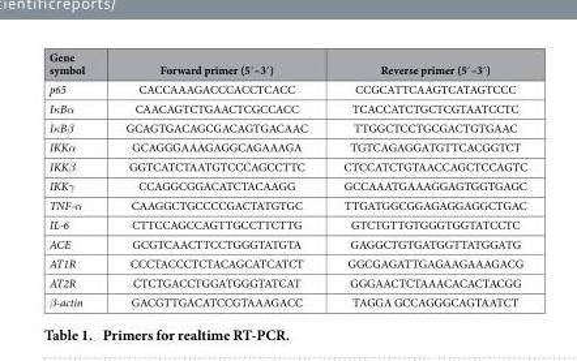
<table><thead><tr><td>Gene symbol</td><td>Forward primer (5′ –3′ )</td><td>Reverse primer (5′ –3′ )</td></tr></thead><tbody><tr><td>p65</td><td>CACCAAAGACCCACCTCACC</td><td>CCGCATTCAAGTCATAGTCCC</td></tr><tr><td>IκBα</td><td>CAACAGTCTGAACTCGCCACC</td><td>TCACCATCTGCTCGTAATCCTC</td></tr><tr><td>IκBβ</td><td>GCAGTGACAGCGACAGTGACAAC</td><td>TTGGCTCCTGCGACTGTGAAC</td></tr><tr><td>IKKα</td><td>GCAGGGAAAGAGGCAGAAAGA</td><td>TGTCAGAGGATGTTCACGGTCT</td></tr><tr><td>IKKβ</td><td>GGTCATCTAATGTCCCAGCCTTC</td><td>CTCCATCTGTAACCAGCTCCAGTC</td></tr><tr><td>IKKγ</td><td>CCAGGCGGACATCTACAAGG</td><td>GCCAAATGAAAGGAGTGGTGAGC</td></tr><tr><td>TNF-α</td><td>CAAGGCTGCCCCGACTATGTGC</td><td>TTGATGGCGGAGAGGAGGCTGAC</td></tr><tr><td>IL-6</td><td>CTTCCAGCCAGTTGCCTTCTTG</td><td>GTCTGTTGTGGGTGGTATCCTC</td></tr><tr><td>ACE</td><td>GCGTCAACTTCCTGGGTATGTA</td><td>GAGGCTGTGATGGTTATGGATG</td></tr><tr><td>AT1R</td><td>CCCTACCCTCTACAGCATCATCT</td><td>GGCGAGATTGAGAAGAAAGACG</td></tr><tr><td>AT2R</td><td>CTCTGACCTGGATGGGTATCAT</td><td>GGGAACTCTAAACACACTACGG</td></tr><tr><td>β-actin</td><td>GACGTTGACATCCGTAAAGACC</td><td>TAGGA GCCAGGGCAGTAATCT</td></tr></tbody></table>